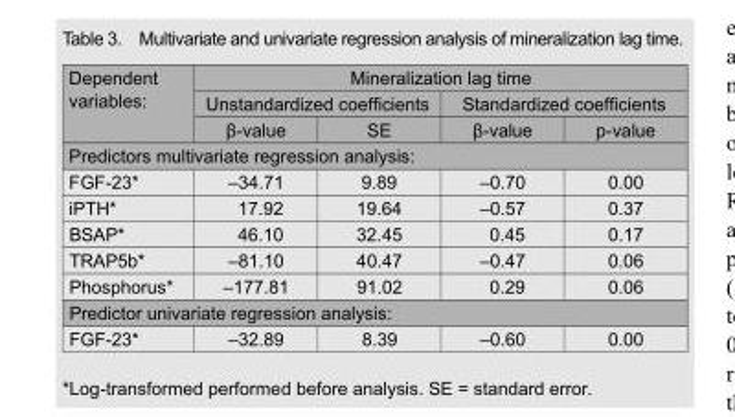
<table><thead><tr><td rowspan="3">Dependent variables:</td><td colspan="4">Mineralization lag time</td></tr><tr><td colspan="2">Unstandardized coefficients</td><td colspan="2">Standardized coefficients</td></tr><tr><td>β-value</td><td>SE</td><td>β-value</td><td>p-value</td></tr></thead><tbody><tr><td colspan="5">Predictors multivariate regression analysis:</td></tr><tr><td>FGF-23*</td><td>–34.71</td><td>9.89</td><td>–0.70</td><td>0.00</td></tr><tr><td>iPTH*</td><td>17.92</td><td>19.64</td><td>–0.57</td><td>0.37</td></tr><tr><td>BSAP*</td><td>46.10</td><td>32.45</td><td>0.45</td><td>0.17</td></tr><tr><td>TRAP5b*</td><td>–81.10</td><td>40.47</td><td>–0.47</td><td>0.06</td></tr><tr><td>Phosphorus*</td><td>–177.81</td><td>91.02</td><td>0.29</td><td>0.06</td></tr><tr><td colspan="5">Predictor univariate regression analysis:</td></tr><tr><td>FGF-23*</td><td>–32.89</td><td>8.39</td><td>–0.60</td><td>0.00</td></tr></tbody></table>